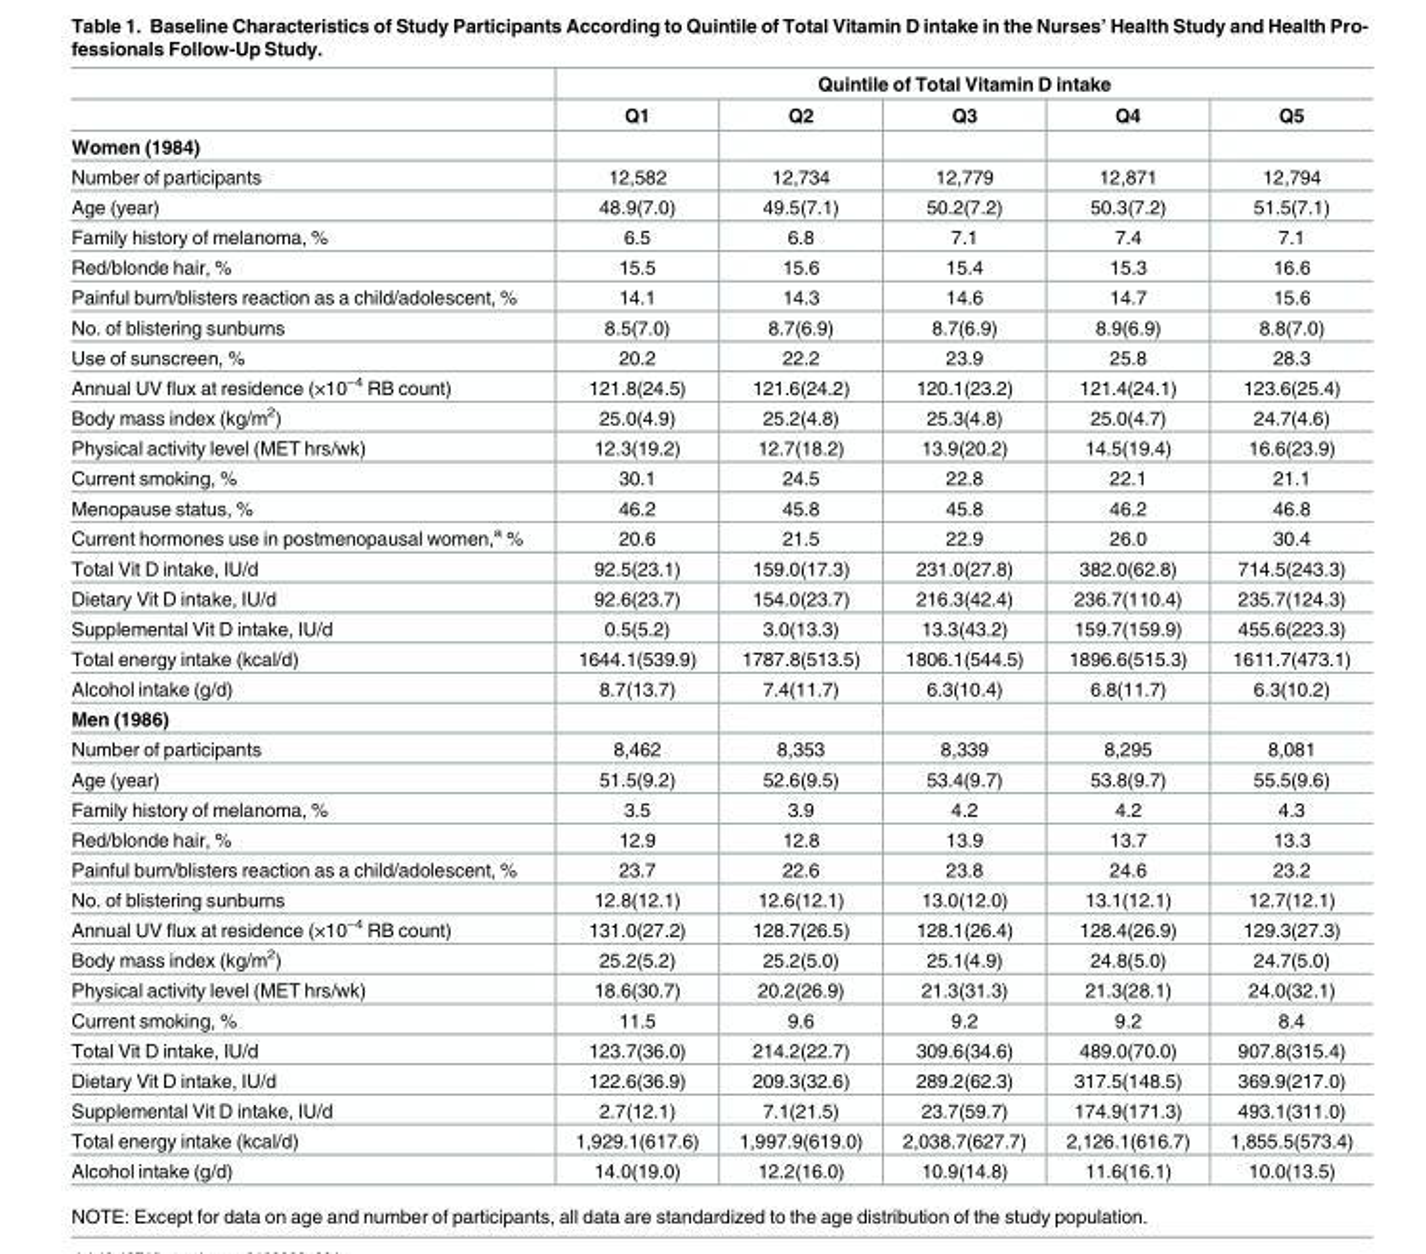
<table><thead><tr><td rowspan="2"></td><td colspan="5">Quintile of Total Vitamin D intake</td></tr><tr><td>Q1</td><td>Q2</td><td>Q3</td><td>Q4</td><td>Q5</td></tr></thead><tbody><tr><td colspan="6">Women (1984)</td></tr><tr><td>Number of participants</td><td>12,582</td><td>12,734</td><td>12,779</td><td>12,871</td><td>12,794</td></tr><tr><td>Age (year)</td><td>48.9(7.0)</td><td>49.5(7.1)</td><td>50.2(7.2)</td><td>50.3(7.2)</td><td>51.5(7.1)</td></tr><tr><td>Family history of melanoma, %</td><td>6.5</td><td>6.8</td><td>7.1</td><td>7.4</td><td>7.1</td></tr><tr><td>Red/blonde hair, %</td><td>15.5</td><td>15.6</td><td>15.4</td><td>15.3</td><td>16.6</td></tr><tr><td>Painful burn/blisters reaction as a child/adolescent, %</td><td>14.1</td><td>14.3</td><td>14.6</td><td>14.7</td><td>15.6</td></tr><tr><td>No. of blistering sunburns</td><td>8.5(7.0)</td><td>8.7(6.9)</td><td>8.7(6.9)</td><td>8.9(6.9)</td><td>8.8(7.0)</td></tr><tr><td>Use of sunscreen, %</td><td>20.2</td><td>22.2</td><td>23.9</td><td>25.8</td><td>28.3</td></tr><tr><td>Annual UV flux at residence (×10<sup>−4</sup> RB count)</td><td>121.8(24.5)</td><td>121.6(24.2)</td><td>120.1(23.2)</td><td>121.4(24.1)</td><td>123.6(25.4)</td></tr><tr><td>Body mass index (kg/m<sup>2</sup>)</td><td>25.0(4.9)</td><td>25.2(4.8)</td><td>25.3(4.8)</td><td>25.0(4.7)</td><td>24.7(4.6)</td></tr><tr><td>Physical activity level (MET hrs/wk)</td><td>12.3(19.2)</td><td>12.7(18.2)</td><td>13.9(20.2)</td><td>14.5(19.4)</td><td>16.6(23.9)</td></tr><tr><td>Current smoking, %</td><td>30.1</td><td>24.5</td><td>22.8</td><td>22.1</td><td>21.1</td></tr><tr><td>Menopause status, %</td><td>46.2</td><td>45.8</td><td>45.8</td><td>46.2</td><td>46.8</td></tr><tr><td>Current hormones use in postmenopausal women,<sup>a</sup> %</td><td>20.6</td><td>21.5</td><td>22.9</td><td>26.0</td><td>30.4</td></tr><tr><td>Total Vit D intake, IU/d</td><td>92.5(23.1)</td><td>159.0(17.3)</td><td>231.0(27.8)</td><td>382.0(62.8)</td><td>714.5(243.3)</td></tr><tr><td>Dietary Vit D intake, IU/d</td><td>92.6(23.7)</td><td>154.0(23.7)</td><td>216.3(42.4)</td><td>236.7(110.4)</td><td>235.7(124.3)</td></tr><tr><td>Supplemental Vit D intake, IU/d</td><td>0.5(5.2)</td><td>3.0(13.3)</td><td>13.3(43.2)</td><td>159.7(159.9)</td><td>455.6(223.3)</td></tr><tr><td>Total energy intake (kcal/d)</td><td>1644.1(539.9)</td><td>1787.8(513.5)</td><td>1806.1(544.5)</td><td>1896.6(515.3)</td><td>1611.7(473.1)</td></tr><tr><td>Alcohol intake (g/d)</td><td>8.7(13.7)</td><td>7.4(11.7)</td><td>6.3(10.4)</td><td>6.8(11.7)</td><td>6.3(10.2)</td></tr><tr><td colspan="6">Men (1986)</td></tr><tr><td>Number of participants</td><td>8,462</td><td>8,353</td><td>8,339</td><td>8,295</td><td>8,081</td></tr><tr><td>Age (year)</td><td>51.5(9.2)</td><td>52.6(9.5)</td><td>53.4(9.7)</td><td>53.8(9.7)</td><td>55.5(9.6)</td></tr><tr><td>Family history of melanoma, %</td><td>3.5</td><td>3.9</td><td>4.2</td><td>4.2</td><td>4.3</td></tr><tr><td>Red/blonde hair, %</td><td>12.9</td><td>12.8</td><td>13.9</td><td>13.7</td><td>13.3</td></tr><tr><td>Painful burn/blisters reaction as a child/adolescent, %</td><td>23.7</td><td>22.6</td><td>23.8</td><td>24.6</td><td>23.2</td></tr><tr><td>No. of blistering sunburns</td><td>12.8(12.1)</td><td>12.6(12.1)</td><td>13.0(12.0)</td><td>13.1(12.1)</td><td>12.7(12.1)</td></tr><tr><td>Annual UV flux at residence (×10<sup>−4</sup> RB count)</td><td>131.0(27.2)</td><td>128.7(26.5)</td><td>128.1(26.4)</td><td>128.4(26.9)</td><td>129.3(27.3)</td></tr><tr><td>Body mass index (kg/m<sup>2</sup>)</td><td>25.2(5.2)</td><td>25.2(5.0)</td><td>25.1(4.9)</td><td>24.8(5.0)</td><td>24.7(5.0)</td></tr><tr><td>Physical activity level (MET hrs/wk)</td><td>18.6(30.7)</td><td>20.2(26.9)</td><td>21.3(31.3)</td><td>21.3(28.1)</td><td>24.0(32.1)</td></tr><tr><td>Current smoking, %</td><td>11.5</td><td>9.6</td><td>9.2</td><td>9.2</td><td>8.4</td></tr><tr><td>Total Vit D intake, IU/d</td><td>123.7(36.0)</td><td>214.2(22.7)</td><td>309.6(34.6)</td><td>489.0(70.0)</td><td>907.8(315.4)</td></tr><tr><td>Dietary Vit D intake, IU/d</td><td>122.6(36.9)</td><td>209.3(32.6)</td><td>289.2(62.3)</td><td>317.5(148.5)</td><td>369.9(217.0)</td></tr><tr><td>Supplemental Vit D intake, IU/d</td><td>2.7(12.1)</td><td>7.1(21.5)</td><td>23.7(59.7)</td><td>174.9(171.3)</td><td>493.1(311.0)</td></tr><tr><td>Total energy intake (kcal/d)</td><td>1,929.1(617.6)</td><td>1,997.9(619.0)</td><td>2,038.7(627.7)</td><td>2,126.1(616.7)</td><td>1,855.5(573.4)</td></tr><tr><td>Alcohol intake (g/d)</td><td>14.0(19.0)</td><td>12.2(16.0)</td><td>10.9(14.8)</td><td>11.6(16.1)</td><td>10.0(13.5)</td></tr></tbody></table>